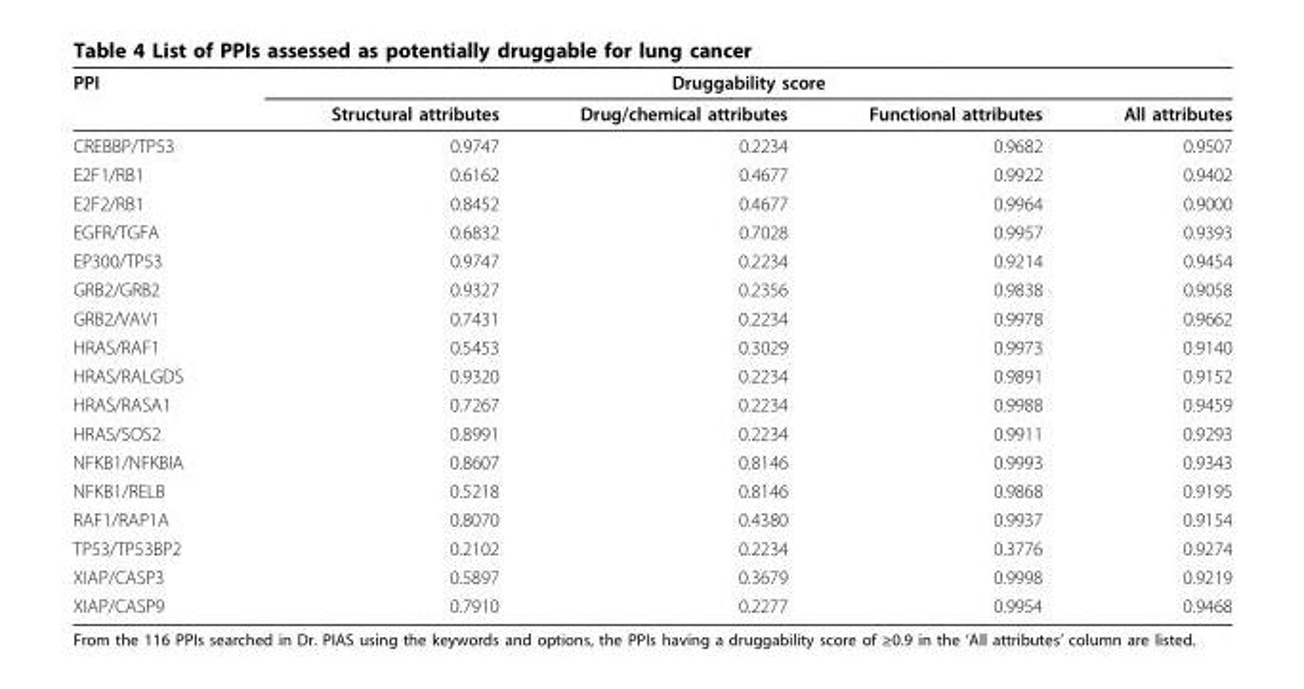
<table><thead><tr><td rowspan="2">PPI</td><td colspan="4">Druggability score</td></tr><tr><td>Structural attributes</td><td>Drug/chemical attributes</td><td>Functional attributes</td><td>All attributes</td></tr></thead><tbody><tr><td>CREBBP/TP53</td><td>0.9747</td><td>0.2234</td><td>0.9682</td><td>0.9507</td></tr><tr><td>E2F1/RB1</td><td>0.6162</td><td>0.4677</td><td>0.9922</td><td>0.9402</td></tr><tr><td>E2F2/RB1</td><td>0.8452</td><td>0.4677</td><td>0.9964</td><td>0.9000</td></tr><tr><td>EGFR/TGFA</td><td>0.6832</td><td>0.7028</td><td>0.9957</td><td>0.9393</td></tr><tr><td>EP300/TP53</td><td>0.9747</td><td>0.2234</td><td>0.9214</td><td>0.9454</td></tr><tr><td>GRB2/GRB2</td><td>0.9327</td><td>0.2356</td><td>0.9838</td><td>0.9058</td></tr><tr><td>GRB2/VAV1</td><td>0.7431</td><td>0.2234</td><td>0.9978</td><td>0.9662</td></tr><tr><td>HRAS/RAF1</td><td>0.5453</td><td>0.3029</td><td>0.9973</td><td>0.9140</td></tr><tr><td>HRAS/RALGDS</td><td>0.9320</td><td>0.2234</td><td>0.9891</td><td>0.9152</td></tr><tr><td>HRAS/RASA1</td><td>0.7267</td><td>0.2234</td><td>0.9988</td><td>0.9459</td></tr><tr><td>HRAS/SOS2</td><td>0.8991</td><td>0.2234</td><td>0.9911</td><td>0.9293</td></tr><tr><td>NFKB1/NFKBIA</td><td>0.8607</td><td>0.8146</td><td>0.9993</td><td>0.9343</td></tr><tr><td>NFKB1/RELB</td><td>0.5218</td><td>0.8146</td><td>0.9868</td><td>0.9195</td></tr><tr><td>RAF1/RAP1A</td><td>0.8070</td><td>0.4380</td><td>0.9937</td><td>0.9154</td></tr><tr><td>TP53/TP53BP2</td><td>0.2102</td><td>0.2234</td><td>0.3776</td><td>0.9274</td></tr><tr><td>XIAP/CASP3</td><td>0.5897</td><td>0.3679</td><td>0.9998</td><td>0.9219</td></tr><tr><td>XIAP/CASP9</td><td>0.7910</td><td>0.2277</td><td>0.9954</td><td>0.9468</td></tr></tbody></table>